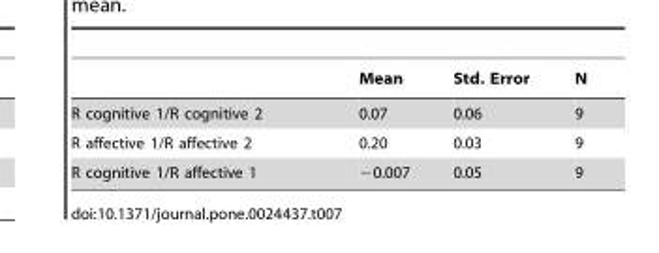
<table><thead><tr><td></td><td>Mean</td><td>Std. Error</td><td>N</td></tr></thead><tbody><tr><td>R cognitive 1/R cognitive 2</td><td>0.07</td><td>0.06</td><td>9</td></tr><tr><td>R affective 1/R affective 2</td><td>0.20</td><td>0.03</td><td>9</td></tr><tr><td>R cognitive 1/R affective 1</td><td>−0.007</td><td>0.05</td><td>9</td></tr></tbody></table>